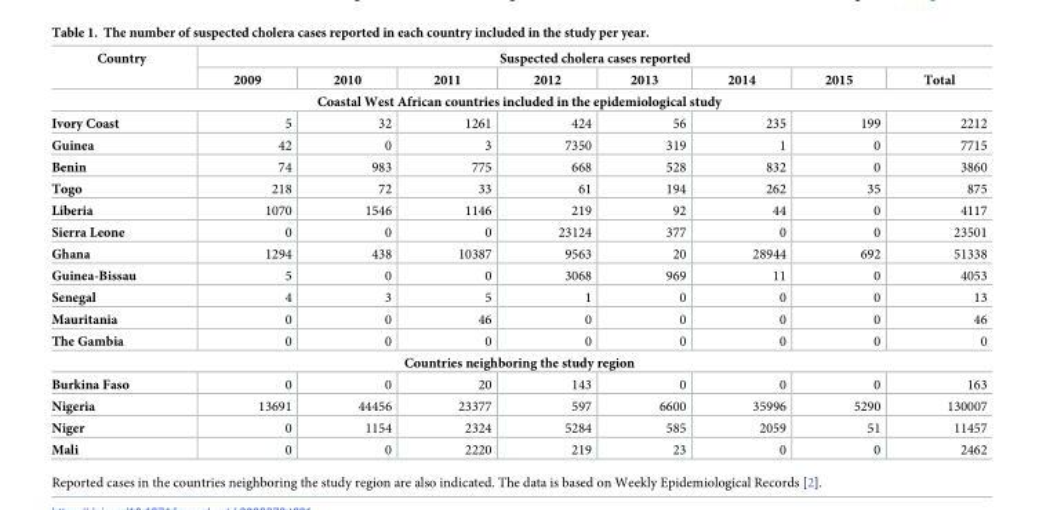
<table><thead><tr><td rowspan="2">Country</td><td colspan="8">Suspected cholera cases reported</td></tr><tr><td>2009</td><td>2010</td><td>2011</td><td>2012</td><td>2013</td><td>2014</td><td>2015</td><td>Total</td></tr></thead><tbody><tr><td colspan="9">Coastal West African countries included in the epidemiological study</td></tr><tr><td>Ivory Coast</td><td>5</td><td>32</td><td>1261</td><td>424</td><td>56</td><td>235</td><td>199</td><td>2212</td></tr><tr><td>Guinea</td><td>42</td><td>0</td><td>3</td><td>7350</td><td>319</td><td>1</td><td>0</td><td>7715</td></tr><tr><td>Benin</td><td>74</td><td>983</td><td>775</td><td>668</td><td>528</td><td>832</td><td>0</td><td>3860</td></tr><tr><td>Togo</td><td>218</td><td>72</td><td>33</td><td>61</td><td>194</td><td>262</td><td>35</td><td>875</td></tr><tr><td>Liberia</td><td>1070</td><td>1546</td><td>1146</td><td>219</td><td>92</td><td>44</td><td>0</td><td>4117</td></tr><tr><td>Sierra Leone</td><td>0</td><td>0</td><td>0</td><td>23124</td><td>377</td><td>0</td><td>0</td><td>23501</td></tr><tr><td>Ghana</td><td>1294</td><td>438</td><td>10387</td><td>9563</td><td>20</td><td>28944</td><td>692</td><td>51338</td></tr><tr><td>Guinea-Bissau</td><td>5</td><td>0</td><td>0</td><td>3068</td><td>969</td><td>11</td><td>0</td><td>4053</td></tr><tr><td>Senegal</td><td>4</td><td>3</td><td>5</td><td>1</td><td>0</td><td>0</td><td>0</td><td>13</td></tr><tr><td>Mauritania</td><td>0</td><td>0</td><td>46</td><td>0</td><td>0</td><td>0</td><td>0</td><td>46</td></tr><tr><td>The Gambia</td><td>0</td><td>0</td><td>0</td><td>0</td><td>0</td><td>0</td><td>0</td><td>0</td></tr><tr><td colspan="9">Countries neighboring the study region</td></tr><tr><td>Burkina Faso</td><td>0</td><td>0</td><td>20</td><td>143</td><td>0</td><td>0</td><td>0</td><td>163</td></tr><tr><td>Nigeria</td><td>13691</td><td>44456</td><td>23377</td><td>597</td><td>6600</td><td>35996</td><td>5290</td><td>130007</td></tr><tr><td>Niger</td><td>0</td><td>1154</td><td>2324</td><td>5284</td><td>585</td><td>2059</td><td>51</td><td>11457</td></tr><tr><td>Mali</td><td>0</td><td>0</td><td>2220</td><td>219</td><td>23</td><td>0</td><td>0</td><td>2462</td></tr></tbody></table>